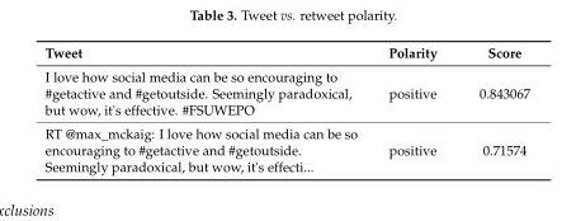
<table><thead><tr><td>Tweet</td><td>Polarity</td><td>Score</td></tr></thead><tbody><tr><td>I love how social media can be so encouraging to #getactive and #getoutside. Seemingly paradoxical, but wow, it&#x27;s effective. #FSUWEPO</td><td>positive</td><td>0.843067</td></tr><tr><td>RT @max_mckaig: I love how social media can be so encouraging to #getactive and #getoutside. Seemingly paradoxical, but wow, it&#x27;s effecti...</td><td>positive</td><td>0.71574</td></tr></tbody></table>